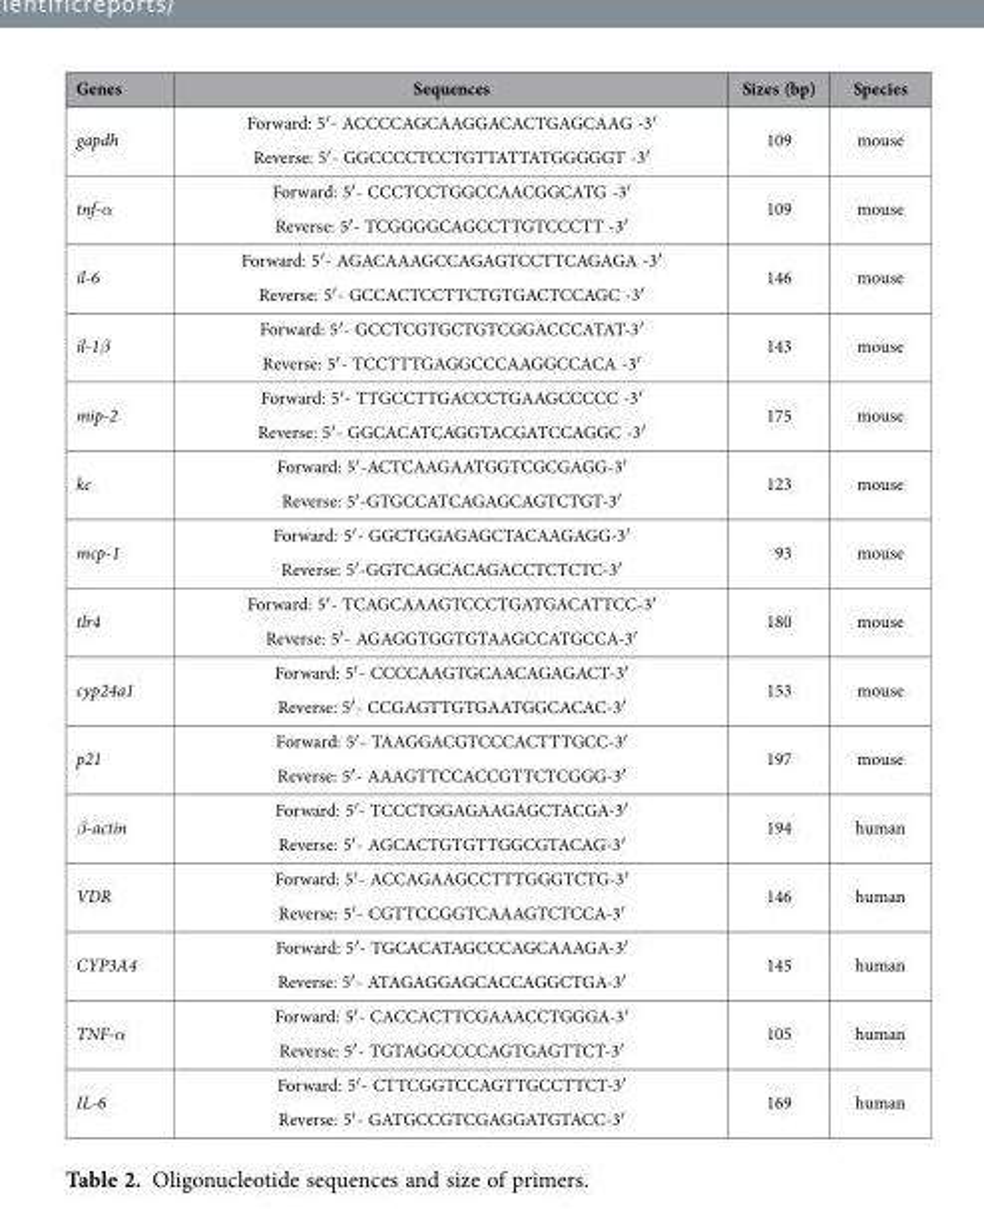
<table><thead><tr><td>Genes</td><td>Sequences</td><td>Sizes (bp)</td><td>Species</td></tr></thead><tbody><tr><td>gapdh</td><td>Forward: 5′ - ACCCCAGCAAGGACACTGAGCAAG -3′ Reverse: 5′ - GGCCCCTCCTGTTATTATGGGGGT -3′</td><td>109</td><td>mouse</td></tr><tr><td>tnf-α</td><td>Forward: 5′ - CCCTCCTGGCCAACGGCATG -3′ Reverse: 5′ - TCGGGGCAGCCTTGTCCCTT -3′</td><td>109</td><td>mouse</td></tr><tr><td>il-6</td><td>Forward: 5′ - AGACAAAGCCAGAGTCCTTCAGAGA -3′ Reverse: 5′ - GCCACTCCTTCTGTGACTCCAGC -3′</td><td>146</td><td>mouse</td></tr><tr><td>il-1β</td><td>Forward: 5′ - GCCTCGTGCTGTCGGACCCATAT-3′ Reverse: 5′ - TCCTTTGAGGCCCAAGGCCACA -3′</td><td>143</td><td>mouse</td></tr><tr><td>mip-2</td><td>Forward: 5′ - TTGCCTTGACCCTGAAGCCCCC -3′ Reverse: 5′ - GGCACATCAGGTACGATCCAGGC -3′</td><td>175</td><td>mouse</td></tr><tr><td>kc</td><td>Forward: 5′ -ACTCAAGAATGGTCGCGAGG-3′ Reverse: 5′ -GTGCCATCAGAGCAGTCTGT-3′</td><td>123</td><td>mouse</td></tr><tr><td>mcp-1</td><td>Forward: 5′ - GGCTGGAGAGCTACAAGAGG-3′ Reverse: 5′ -GGTCAGCACAGACCTCTCTC-3′</td><td>93</td><td>mouse</td></tr><tr><td>tlr4</td><td>Forward: 5′ - TCAGCAAAGTCCCTGATGACATTCC-3′ Reverse: 5′ - AGAGGTGGTGTAAGCCATGCCA-3′</td><td>180</td><td>mouse</td></tr><tr><td>cyp24a1</td><td>Forward: 5′ - CCCCAAGTGCAACAGAGACT-3′ Reverse: 5′ - CCGAGTTGTGAATGGCACAC-3′</td><td>153</td><td>mouse</td></tr><tr><td>p21</td><td>Forward: 5′ - TAAGGACGTCCCACTTTGCC-3′ Reverse: 5′ - AAAGTTCCACCGTTCTCGGG-3′</td><td>197</td><td>mouse</td></tr><tr><td>β-actin</td><td>Forward: 5′- TCCCTGGAGAAGAGCTACGA-3′ Reverse: 5′ - AGCACTGTGTTGGCGTACAG-3′</td><td>194</td><td>human</td></tr><tr><td>VDR</td><td>Forward: 5′ - ACCAGAAGCCTTTGGGTCTG-3′ Reverse: 5′ - CGTTCCGGTCAAAGTCTCCA-3′</td><td>146</td><td>human</td></tr><tr><td>CYP3A4</td><td>Forward: 5′ - TGCACATAGCCCAGCAAAGA-3′ Reverse: 5′ - ATAGAGGAGCACCAGGCTGA-3′</td><td>145</td><td>human</td></tr><tr><td>TNF-α</td><td>Forward: 5′ - CACCACTTCGAAACCTGGGA-3′ Reverse: 5′ - TGTAGGCCCCAGTGAGTTCT-3′</td><td>105</td><td>human</td></tr><tr><td>IL-6</td><td>Forward: 5′ - CTTCGGTCCAGTTGCCTTCT-3′ Reverse: 5′ - GATGCCGTCGAGGATGTACC-3′</td><td>169</td><td>human</td></tr></tbody></table>